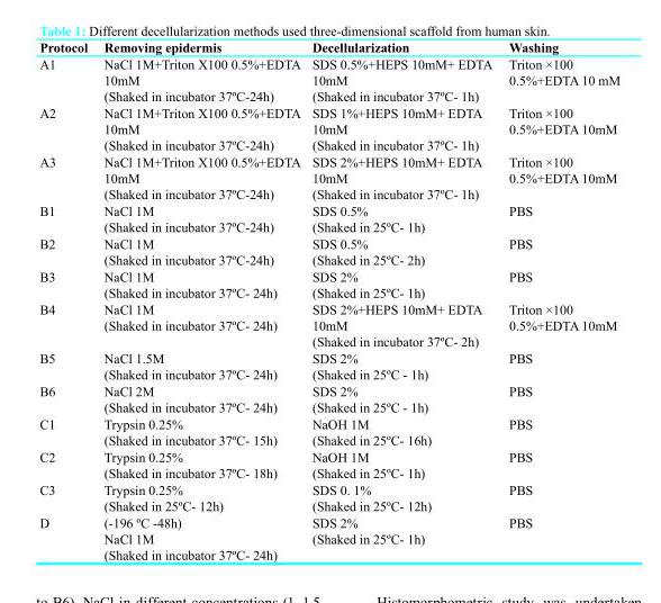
<table><thead><tr><td>Protocol</td><td>Removing epidermis</td><td>Decellularization</td><td>Washing</td></tr></thead><tbody><tr><td>A1</td><td>NaCl 1M+Triton X100 0.5%+EDTA 10mM (Shaked in incubator 37ºC-24h)</td><td>SDS 0.5%+HEPS 10mM+ EDTA 10mM (Shaked in incubator 37ºC- 1h)</td><td>Triton ×100 0.5%+EDTA 10 mM</td></tr><tr><td>A2</td><td>NaCl 1M+Triton X100 0.5%+EDTA 10mM (Shaked in incubator 37ºC-24h)</td><td>SDS 1%+HEPS 10mM+ EDTA 10mM (Shaked in incubator 37ºC- 1h)</td><td>Triton ×100 0.5%+EDTA 10mM</td></tr><tr><td>A3</td><td>NaCl 1M+Triton X100 0.5%+EDTA 10mM (Shaked in incubator 37ºC-24h)</td><td>SDS 2%+HEPS 10mM+ EDTA 10mM (Shaked in incubator 37ºC- 1h)</td><td>Triton ×100 0.5%+EDTA 10mM</td></tr><tr><td>B1</td><td>NaCl 1M (Shaked in incubator 37ºC-24h)</td><td>SDS 0.5% (Shaked in 25ºC- 1h)</td><td>PBS</td></tr><tr><td>B2</td><td>NaCl 1M (Shaked in incubator 37ºC-24h)</td><td>SDS 0.5% (Shaked in 25ºC- 2h)</td><td>PBS</td></tr><tr><td>B3</td><td>NaCl 1M (Shaked in incubator 37ºC- 24h)</td><td>SDS 2% (Shaked in 25ºC- 1h)</td><td>PBS</td></tr><tr><td>B4</td><td>NaCl 1M (Shaked in incubator 37ºC- 24h)</td><td>SDS 2%+HEPS 10mM+ EDTA 10mM (Shaked in incubator 37ºC- 2h)</td><td>Triton ×100 0.5%+EDTA 10mM</td></tr><tr><td>B5</td><td>NaCl 1.5M (Shaked in incubator 37ºC- 24h)</td><td>SDS 2% (Shaked in 25ºC - 1h)</td><td>PBS</td></tr><tr><td>B6</td><td>NaCl 2M (Shaked in incubator 37ºC- 24h)</td><td>SDS 2% (Shaked in 25ºC - 1h)</td><td>PBS</td></tr><tr><td>C1</td><td>Trypsin 0.25% (Shaked in incubator 37ºC- 15h)</td><td>NaOH 1M (Shaked in 25ºC- 16h)</td><td>PBS</td></tr><tr><td>C2</td><td>Trypsin 0.25% (Shaked in incubator 37ºC- 18h)</td><td>NaOH 1M (Shaked in 25ºC- 1h)</td><td>PBS</td></tr><tr><td>C3</td><td>Trypsin 0.25% (Shaked in 25ºC- 12h)</td><td>SDS 0. 1% (Shaked in 25ºC- 12h)</td><td>PBS</td></tr><tr><td>D</td><td>(-196 ºC -48h) NaCl 1M (Shaked in incubator 37ºC- 24h)</td><td>SDS 2% (Shaked in 25ºC- 1h)</td><td>PBS</td></tr></tbody></table>